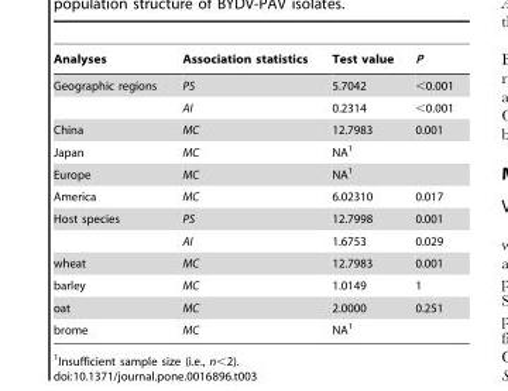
<table><thead><tr><td>Analyses</td><td>Association statistics</td><td>Test value</td><td>P</td></tr></thead><tbody><tr><td rowspan="2">Geographic regions</td><td>PS</td><td>5.7042</td><td>&lt;0.001</td></tr><tr><td>AI</td><td>0.2314</td><td>&lt;0.001</td></tr><tr><td>China</td><td>MC</td><td>12.7983</td><td>0.001</td></tr><tr><td>Japan</td><td>MC</td><td colspan="2">NA<sup>1</sup></td></tr><tr><td>Europe</td><td>MC</td><td colspan="2">NA<sup>1</sup></td></tr><tr><td>America</td><td>MC</td><td>6.02310</td><td>0.017</td></tr><tr><td rowspan="2">Host species</td><td>PS</td><td>12.7998</td><td>0.001</td></tr><tr><td>AI</td><td>1.6753</td><td>0.029</td></tr><tr><td>wheat</td><td>MC</td><td>12.7983</td><td>0.001</td></tr><tr><td>barley</td><td>MC</td><td>1.0149</td><td>1</td></tr><tr><td>oat</td><td>MC</td><td>2.0000</td><td>0.251</td></tr><tr><td>brome</td><td>MC</td><td colspan="2">NA<sup>1</sup></td></tr></tbody></table>